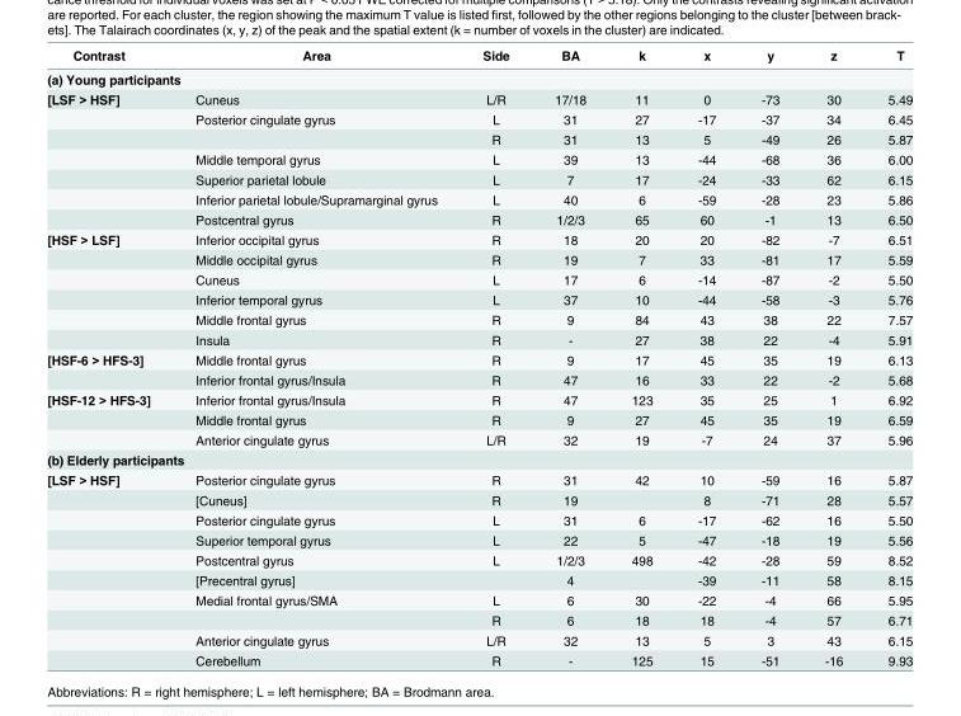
<table><thead><tr><td>Contrast</td><td>Area</td><td>Side</td><td>BA</td><td>k</td><td>x</td><td>y</td><td>z</td><td>T</td></tr></thead><tbody><tr><td colspan="9">(a) Young participants</td></tr><tr><td rowspan="7">[LSF &gt; HSF]</td><td>Cuneus</td><td>L/R</td><td>17/18</td><td>11</td><td>0</td><td>-73</td><td>30</td><td>5.49</td></tr><tr><td>Posterior cingulate gyrus</td><td>L</td><td>31</td><td>27</td><td>-17</td><td>-37</td><td>34</td><td>6.45</td></tr><tr><td></td><td>R</td><td>31</td><td>13</td><td>5</td><td>-49</td><td>26</td><td>5.87</td></tr><tr><td>Middle temporal gyrus</td><td>L</td><td>39</td><td>13</td><td>-44</td><td>-68</td><td>36</td><td>6.00</td></tr><tr><td>Superior parietal lobule</td><td>L</td><td>7</td><td>17</td><td>-24</td><td>-33</td><td>62</td><td>6.15</td></tr><tr><td>Inferior parietal lobule/Supramarginal gyrus</td><td>L</td><td>40</td><td>6</td><td>-59</td><td>-28</td><td>23</td><td>5.86</td></tr><tr><td>Postcentral gyrus</td><td>R</td><td>1/2/3</td><td>65</td><td>60</td><td>-1</td><td>13</td><td>6.50</td></tr><tr><td rowspan="6">[HSF &gt; LSF]</td><td>Inferior occipital gyrus</td><td>R</td><td>18</td><td>20</td><td>20</td><td>-82</td><td>-7</td><td>6.51</td></tr><tr><td>Middle occipital gyrus</td><td>R</td><td>19</td><td>7</td><td>33</td><td>-81</td><td>17</td><td>5.59</td></tr><tr><td>Cuneus</td><td>L</td><td>17</td><td>6</td><td>-14</td><td>-87</td><td>-2</td><td>5.50</td></tr><tr><td>Inferior temporal gyrus</td><td>L</td><td>37</td><td>10</td><td>-44</td><td>-58</td><td>-3</td><td>5.76</td></tr><tr><td>Middle frontal gyrus</td><td>R</td><td>9</td><td>84</td><td>43</td><td>38</td><td>22</td><td>7.57</td></tr><tr><td>Insula</td><td>R</td><td>-</td><td>27</td><td>38</td><td>22</td><td>-4</td><td>5.91</td></tr><tr><td rowspan="2">[HSF-6 &gt; HFS-3]</td><td>Middle frontal gyrus</td><td>R</td><td>9</td><td>17</td><td>45</td><td>35</td><td>19</td><td>6.13</td></tr><tr><td>Inferior frontal gyrus/Insula</td><td>R</td><td>47</td><td>16</td><td>33</td><td>22</td><td>-2</td><td>5.68</td></tr><tr><td rowspan="3">[HSF-12 &gt; HFS-3]</td><td>Inferior frontal gyrus/Insula</td><td>R</td><td>47</td><td>123</td><td>35</td><td>25</td><td>1</td><td>6.92</td></tr><tr><td>Middle frontal gyrus</td><td>R</td><td>9</td><td>27</td><td>45</td><td>35</td><td>19</td><td>6.59</td></tr><tr><td>Anterior cingulate gyrus</td><td>L/R</td><td>32</td><td>19</td><td>-7</td><td>24</td><td>37</td><td>5.96</td></tr><tr><td colspan="9">(b) Elderly participants</td></tr><tr><td rowspan="10">[LSF &gt; HSF]</td><td>Posterior cingulate gyrus</td><td>R</td><td>31</td><td>42</td><td>10</td><td>-59</td><td>16</td><td>5.87</td></tr><tr><td>[Cuneus]</td><td>R</td><td>19</td><td></td><td>8</td><td>-71</td><td>28</td><td>5.57</td></tr><tr><td>Posterior cingulate gyrus</td><td>L</td><td>31</td><td>6</td><td>-17</td><td>-62</td><td>16</td><td>5.50</td></tr><tr><td>Superior temporal gyrus</td><td>L</td><td>22</td><td>5</td><td>-47</td><td>-18</td><td>19</td><td>5.56</td></tr><tr><td>Postcentral gyrus</td><td>L</td><td>1/2/3</td><td>498</td><td>-42</td><td>-28</td><td>59</td><td>8.52</td></tr><tr><td>[Precentral gyrus]</td><td></td><td>4</td><td></td><td>-39</td><td>-11</td><td>58</td><td>8.15</td></tr><tr><td>Medial frontal gyrus/SMA</td><td>L</td><td>6</td><td>30</td><td>-22</td><td>-4</td><td>66</td><td>5.95</td></tr><tr><td></td><td>R</td><td>6</td><td>18</td><td>18</td><td>-4</td><td>57</td><td>6.71</td></tr><tr><td>Anterior cingulate gyrus</td><td>L/R</td><td>32</td><td>13</td><td>5</td><td>3</td><td>43</td><td>6.15</td></tr><tr><td>Cerebellum</td><td>R</td><td>-</td><td>125</td><td>15</td><td>-51</td><td>-16</td><td>9.93</td></tr></tbody></table>